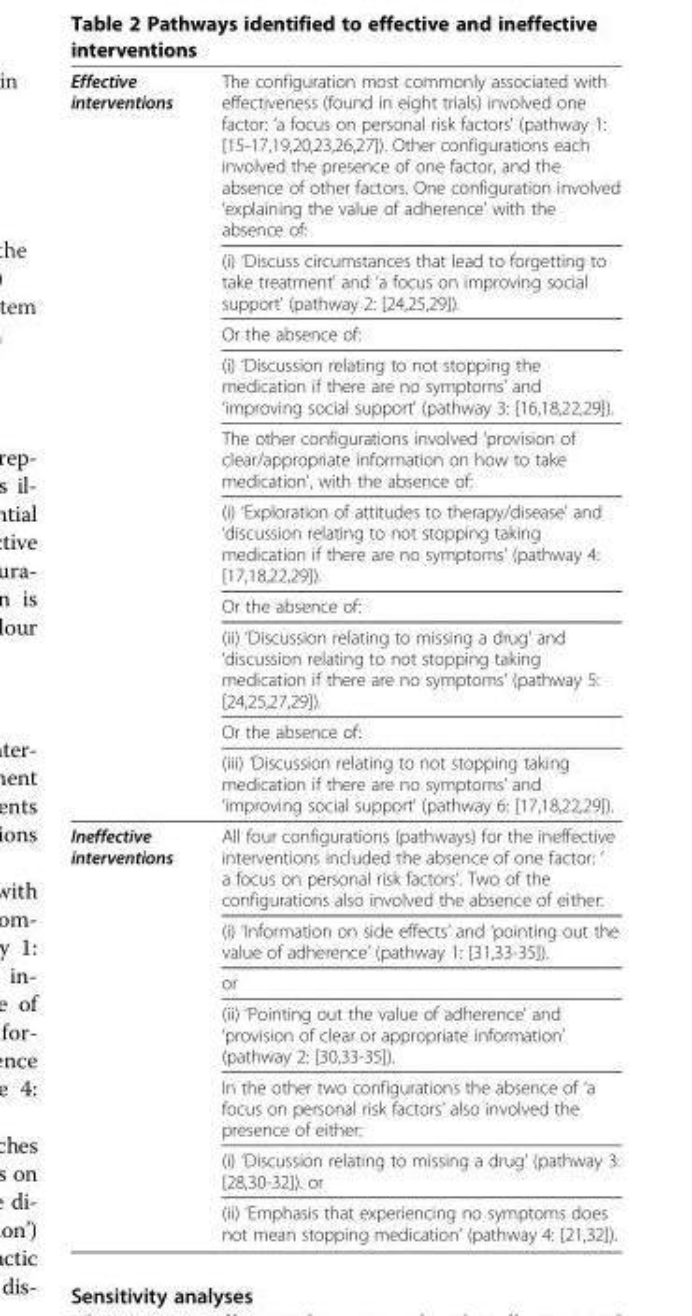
<table><tbody><tr><td rowspan="10">Effective interventions</td><td>The configuration most commonly associated with effectiveness (found in eight trials) involved one factor: ‘a focus on personal risk factors’ (pathway 1: [15-17,19,20,23,26,27]). Other configurations each involved the presence of one factor, and the absence of other factors. One configuration involved ‘explaining the value of adherence’ with the absence of:</td></tr><tr><td>(i) ‘Discuss circumstances that lead to forgetting to take treatment’ and ‘a focus on improving social support’ (pathway 2: [24,25,29]).</td></tr><tr><td>Or the absence of:</td></tr><tr><td>(i) ‘Discussion relating to not stopping the medication if there are no symptoms’ and ‘improving social support’ (pathway 3: [16,18,22,29]).</td></tr><tr><td>The other configurations involved ‘provision of clear/appropriate information on how to take medication’, with the absence of:</td></tr><tr><td>(i) ‘Exploration of attitudes to therapy/disease’ and ‘discussion relating to not stopping taking medication if there are no symptoms’ (pathway 4: [17,18,22,29]).</td></tr><tr><td>Or the absence of:</td></tr><tr><td>(ii) ‘Discussion relating to missing a drug’ and ‘discussion relating to not stopping taking medication if there are no symptoms’ (pathway 5: [24,25,27,29]).</td></tr><tr><td>Or the absence of:</td></tr><tr><td>(iii) ‘Discussion relating to not stopping taking medication if there are no symptoms’ and ‘improving social support’ (pathway 6: [17,18,22,29]).</td></tr><tr><td rowspan="7">Ineffective interventions</td><td>All four configurations (pathways) for the ineffective interventions included the absence of one factor: ‘ a focus on personal risk factors’. Two of the configurations also involved the absence of either:</td></tr><tr><td>(i) ‘Information on side effects’ and ‘pointing out the value of adherence’ (pathway 1: [31,33-35]).</td></tr><tr><td>or</td></tr><tr><td>(ii) ‘Pointing out the value of adherence’ and ‘provision of clear or appropriate information’ (pathway 2: [30,33-35]).</td></tr><tr><td>In the other two configurations the absence of ‘a focus on personal risk factors’ also involved the presence of either:</td></tr><tr><td>(i) ‘Discussion relating to missing a drug’ (pathway 3: [28,30-32]). or</td></tr><tr><td>(ii) ‘Emphasis that experiencing no symptoms does not mean stopping medication’ (pathway 4: [21,32]).</td></tr></tbody></table>